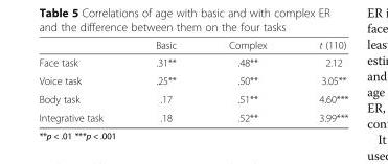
<table><thead><tr><td></td><td>Basic</td><td>Complex</td><td>t (110)</td></tr></thead><tbody><tr><td>Face task</td><td>.31**</td><td>.48**</td><td>2.12</td></tr><tr><td>Voice task</td><td>.25**</td><td>.50**</td><td>3.05**</td></tr><tr><td>Body task</td><td>.17</td><td>.51**</td><td>4.60***</td></tr><tr><td>Integrative task</td><td>.18</td><td>.52**</td><td>3.99***</td></tr></tbody></table>